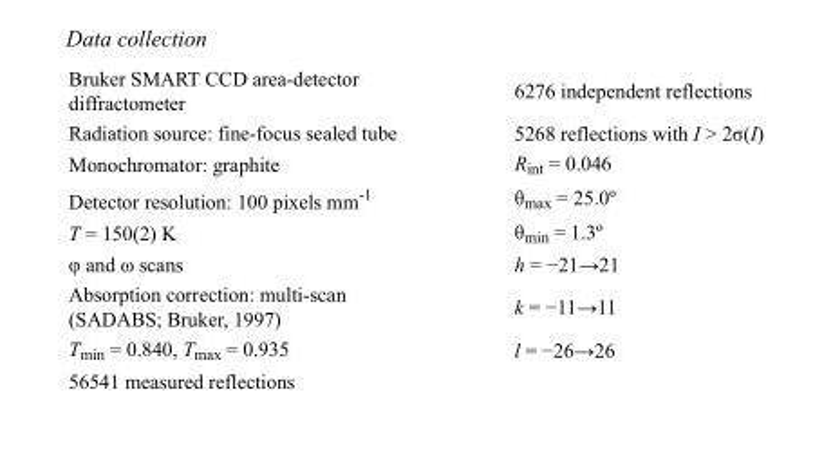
<table><tbody><tr><td>Bruker SMART CCD area-detector diffractometer</td><td>6276 independent reflections</td></tr><tr><td>Radiation source: fine-focus sealed tube</td><td>5268 reflections with I &gt; 2σ(I)</td></tr><tr><td>Monochromator: graphite</td><td>R<sub>int</sub> = 0.046</td></tr><tr><td>Detector resolution: 100 pixels mm<sup>-1</sup></td><td>θ<sub>max</sub> = 25.0º</td></tr><tr><td>T = 150(2) K</td><td>θ<sub>min</sub> = 1.3º</td></tr><tr><td>φ and ω scans</td><td>h = −21→21</td></tr><tr><td>Absorption correction: multi-scan (SADABS; Bruker, 1997)</td><td>k = −11→11</td></tr><tr><td>T<sub>min</sub> = 0.840, T<sub>max</sub> = 0.935</td><td>l = −26→26</td></tr><tr><td>56541 measured reflections</td><td></td></tr></tbody></table>